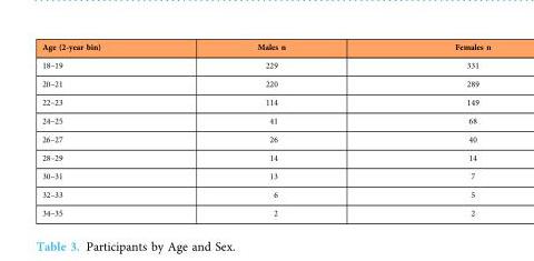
<table><thead><tr><td>Age (2-year bin)</td><td>Males n</td><td>Females n</td></tr></thead><tbody><tr><td>18–19</td><td>229</td><td>331</td></tr><tr><td>20–21</td><td>220</td><td>289</td></tr><tr><td>22–23</td><td>114</td><td>149</td></tr><tr><td>24–25</td><td>41</td><td>68</td></tr><tr><td>26–27</td><td>26</td><td>40</td></tr><tr><td>28–29</td><td>14</td><td>14</td></tr><tr><td>30–31</td><td>13</td><td>7</td></tr><tr><td>32–33</td><td>6</td><td>5</td></tr><tr><td>34–35</td><td>2</td><td>2</td></tr></tbody></table>